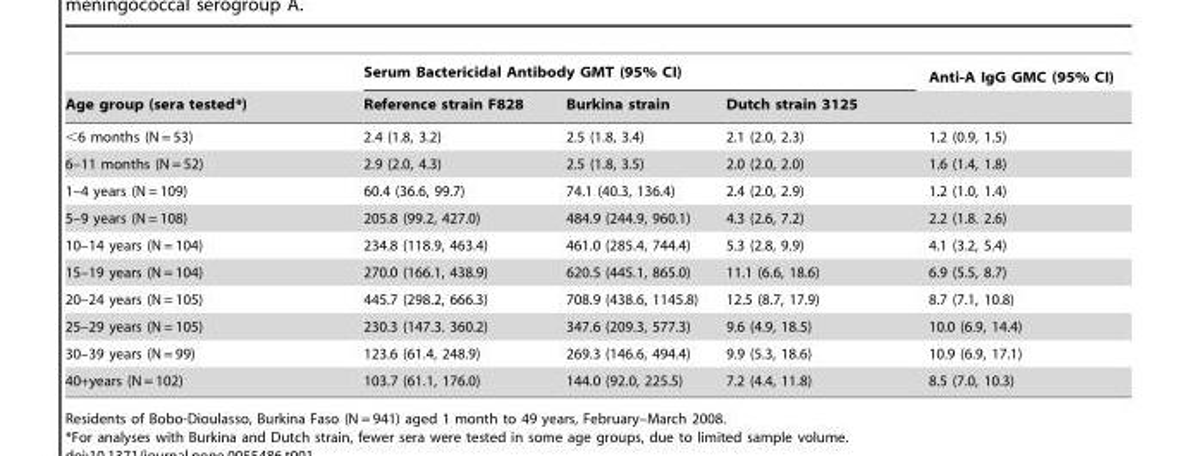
<table><thead><tr><td rowspan="2">Age group (sera tested*)</td><td colspan="3">Serum Bactericidal Antibody GMT (95% CI)</td><td rowspan="2">Anti-A IgG GMC (95% CI)</td></tr><tr><td>Reference strain F828</td><td>Burkina strain</td><td>Dutch strain 3125</td></tr></thead><tbody><tr><td>&lt;6 months (N = 53)</td><td>2.4 (1.8, 3.2)</td><td>2.5 (1.8, 3.4)</td><td>2.1 (2.0, 2.3)</td><td>1.2 (0.9, 1.5)</td></tr><tr><td>6–11 months (N = 52)</td><td>2.9 (2.0, 4.3)</td><td>2.5 (1.8, 3.5)</td><td>2.0 (2.0, 2.0)</td><td>1.6 (1.4, 1.8)</td></tr><tr><td>1–4 years (N = 109)</td><td>60.4 (36.6, 99.7)</td><td>74.1 (40.3, 136.4)</td><td>2.4 (2.0, 2.9)</td><td>1.2 (1.0, 1.4)</td></tr><tr><td>5–9 years (N = 108)</td><td>205.8 (99.2, 427.0)</td><td>484.9 (244.9, 960.1)</td><td>4.3 (2.6, 7.2)</td><td>2.2 (1.8. 2.6)</td></tr><tr><td>10–14 years (N = 104)</td><td>234.8 (118.9, 463.4)</td><td>461.0 (285.4, 744.4)</td><td>5.3 (2.8, 9.9)</td><td>4.1 (3.2, 5.4)</td></tr><tr><td>15–19 years (N = 104)</td><td>270.0 (166.1, 438.9)</td><td>620.5 (445.1, 865.0)</td><td>11.1 (6.6, 18.6)</td><td>6.9 (5.5, 8.7)</td></tr><tr><td>20–24 years (N = 105)</td><td>445.7 (298.2, 666.3)</td><td>708.9 (438.6, 1145.8)</td><td>12.5 (8.7, 17.9)</td><td>8.7 (7.1, 10.8)</td></tr><tr><td>25–29 years (N = 105)</td><td>230.3 (147.3. 360.2)</td><td>347.6 (209.3, 577.3)</td><td>9.6 (4.9, 18.5)</td><td>10.0 (6.9, 14.4)</td></tr><tr><td>30–39 years (N = 99)</td><td>123.6 (61.4, 248.9)</td><td>269.3 (146.6, 494.4)</td><td>9.9 (5.3, 18.6)</td><td>10.9 (6.9, 17.1)</td></tr><tr><td>40+years (N = 102)</td><td>103.7 (61.1, 176.0)</td><td>144.0 (92.0, 225.5)</td><td>7.2 (4.4, 11.8)</td><td>8.5 (7.0, 10.3)</td></tr></tbody></table>